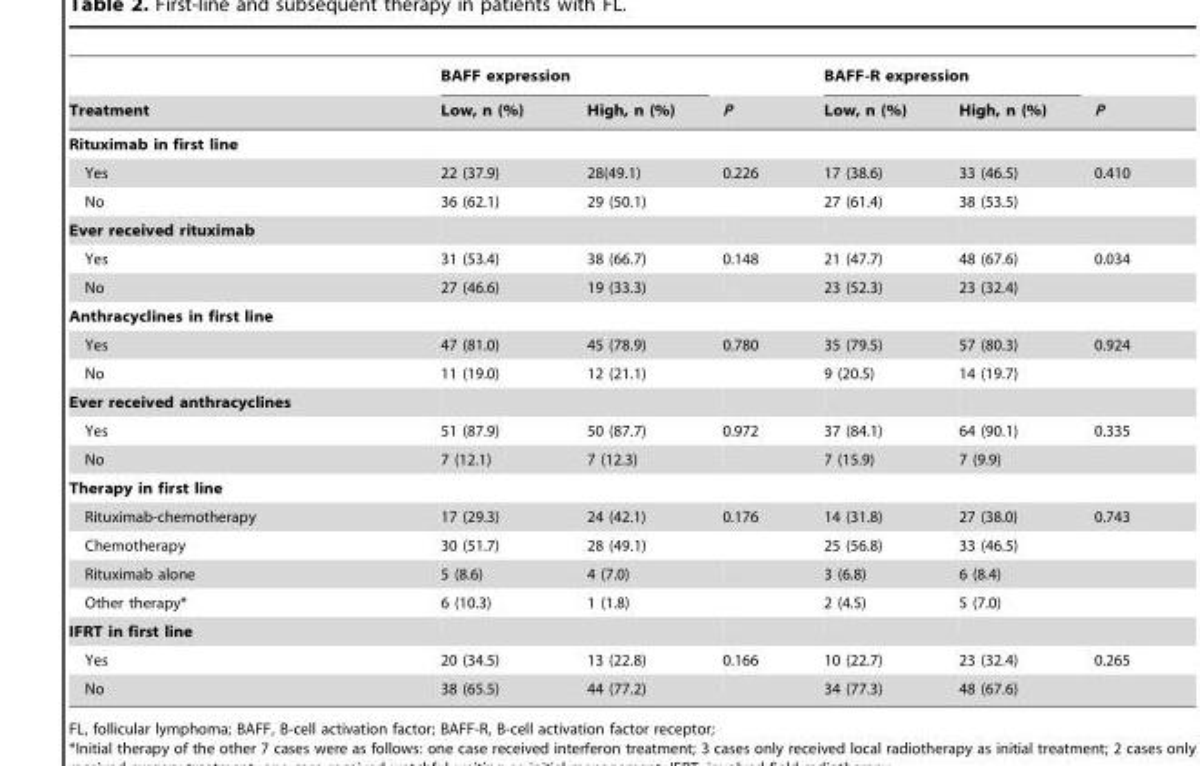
<table><thead><tr><td rowspan="2">Treatment</td><td colspan="2">BAFF expression</td><td rowspan="2">P</td><td colspan="2">BAFF-R expression</td><td rowspan="2">P</td></tr><tr><td>Low, n (%)</td><td>High, n (%)</td><td>Low, n (%)</td><td>High, n (%)</td></tr></thead><tbody><tr><td colspan="7">Rituximab in first line</td></tr><tr><td>Yes</td><td>22 (37.9)</td><td>28(49.1)</td><td>0.226</td><td>17 (38.6)</td><td>33 (46.5)</td><td>0.410</td></tr><tr><td>No</td><td>36 (62.1)</td><td>29 (50.1)</td><td></td><td>27 (61.4)</td><td>38 (53.5)</td><td></td></tr><tr><td colspan="7">Ever received rituximab</td></tr><tr><td>Yes</td><td>31 (53.4)</td><td>38 (66.7)</td><td>0.148</td><td>21 (47.7)</td><td>48 (67.6)</td><td>0.034</td></tr><tr><td>No</td><td>27 (46.6)</td><td>19 (33.3)</td><td></td><td>23 (52.3)</td><td>23 (32.4)</td><td></td></tr><tr><td colspan="7">Anthracyclines in first line</td></tr><tr><td>Yes</td><td>47 (81.0)</td><td>45 (78.9)</td><td>0.780</td><td>35 (79.5)</td><td>57 (80.3)</td><td>0.924</td></tr><tr><td>No</td><td>11 (19.0)</td><td>12 (21.1)</td><td></td><td>9 (20.5)</td><td>14 (19.7)</td><td></td></tr><tr><td colspan="7">Ever received anthracyclines</td></tr><tr><td>Yes</td><td>51 (87.9)</td><td>50 (87.7)</td><td>0.972</td><td>37 (84.1)</td><td>64 (90.1)</td><td>0.335</td></tr><tr><td>No</td><td>7 (12.1)</td><td>7 (12.3)</td><td></td><td>7 (15.9)</td><td>7 (9.9)</td><td></td></tr><tr><td colspan="7">Therapy in first line</td></tr><tr><td>Rituximab-chemotherapy</td><td>17 (29.3)</td><td>24 (42.1)</td><td>0.176</td><td>14 (31.8)</td><td>27 (38.0)</td><td>0.743</td></tr><tr><td>Chemotherapy</td><td>30 (51.7)</td><td>28 (49.1)</td><td></td><td>25 (56.8)</td><td>33 (46.5)</td><td></td></tr><tr><td>Rituximab alone</td><td>5 (8.6)</td><td>4 (7.0)</td><td></td><td>3 (6.8)</td><td>6 (8.4)</td><td></td></tr><tr><td>Other therapy*</td><td>6 (10.3)</td><td>1 (1.8)</td><td></td><td>2 (4.5)</td><td>5 (7.0)</td><td></td></tr><tr><td colspan="7">IFRT in first line</td></tr><tr><td>Yes</td><td>20 (34.5)</td><td>13 (22.8)</td><td>0.166</td><td>10 (22.7)</td><td>23 (32.4)</td><td>0.265</td></tr><tr><td>No</td><td>38 (65.5)</td><td>44 (77.2)</td><td></td><td>34 (77.3)</td><td>48 (67.6)</td><td></td></tr></tbody></table>